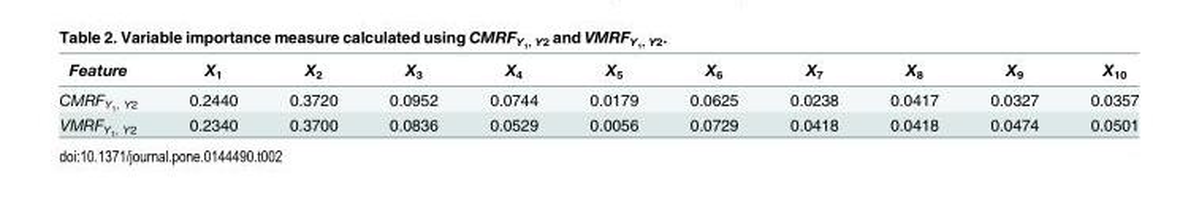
<table><thead><tr><td>Feature</td><td>X<sub>1</sub></td><td>X<sub>2</sub></td><td>X<sub>3</sub></td><td>X<sub>4</sub></td><td>X<sub>5</sub></td><td>X<sub>6</sub></td><td>X<sub>7</sub></td><td>X<sub>8</sub></td><td>X<sub>9</sub></td><td>X<sub>10</sub></td></tr></thead><tbody><tr><td>CMRFY1, Y2</td><td>0.2440</td><td>0.3720</td><td>0.0952</td><td>0.0744</td><td>0.0179</td><td>0.0625</td><td>0.0238</td><td>0.0417</td><td>0.0327</td><td>0.0357</td></tr><tr><td>VMRFY1, Y2</td><td>0.2340</td><td>0.3700</td><td>0.0836</td><td>0.0529</td><td>0.0056</td><td>0.0729</td><td>0.0418</td><td>0.0418</td><td>0.0474</td><td>0.0501</td></tr></tbody></table>